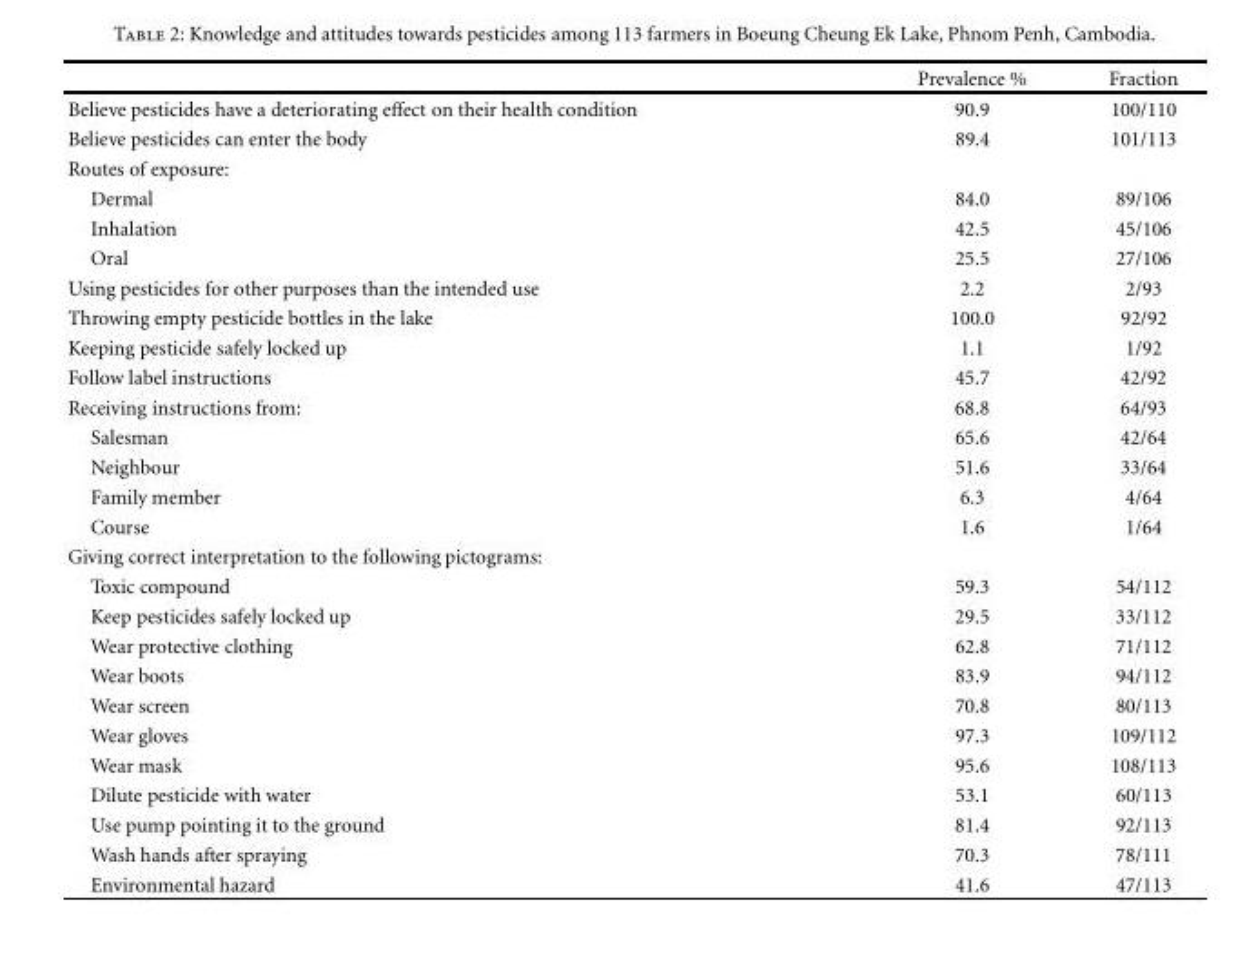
<table><thead><tr><td></td><td>Prevalence %</td><td>Fraction</td></tr></thead><tbody><tr><td>Believe pesticides have a deteriorating effect on their health condition</td><td>90.9</td><td>100/110</td></tr><tr><td>Believe pesticides can enter the body</td><td>89.4</td><td>101/113</td></tr><tr><td colspan="3">Routes of exposure:</td></tr><tr><td>Dermal</td><td>84.0</td><td>89/106</td></tr><tr><td>Inhalation</td><td>42.5</td><td>45/106</td></tr><tr><td>Oral</td><td>25.5</td><td>27/106</td></tr><tr><td>Using pesticides for other purposes than the intended use</td><td>2.2</td><td>2/93</td></tr><tr><td>Throwing empty pesticide bottles in the lake</td><td>100.0</td><td>92/92</td></tr><tr><td>Keeping pesticide safely locked up</td><td>1.1</td><td>1/92</td></tr><tr><td>Follow label instructions</td><td>45.7</td><td>42/92</td></tr><tr><td>Receiving instructions from:</td><td>68.8</td><td>64/93</td></tr><tr><td>Salesman</td><td>65.6</td><td>42/64</td></tr><tr><td>Neighbour</td><td>51.6</td><td>33/64</td></tr><tr><td>Family member</td><td>6.3</td><td>4/64</td></tr><tr><td>Course</td><td>1.6</td><td>1/64</td></tr><tr><td colspan="3">Giving correct interpretation to the following pictograms:</td></tr><tr><td>Toxic compound</td><td>59.3</td><td>54/112</td></tr><tr><td>Keep pesticides safely locked up</td><td>29.5</td><td>33/112</td></tr><tr><td>Wear protective clothing</td><td>62.8</td><td>71/112</td></tr><tr><td>Wear boots</td><td>83.9</td><td>94/112</td></tr><tr><td>Wear screen</td><td>70.8</td><td>80/113</td></tr><tr><td>Wear gloves</td><td>97.3</td><td>109/112</td></tr><tr><td>Wear mask</td><td>95.6</td><td>108/113</td></tr><tr><td>Dilute pesticide with water</td><td>53.1</td><td>60/113</td></tr><tr><td>Use pump pointing it to the ground</td><td>81.4</td><td>92/113</td></tr><tr><td>Wash hands after spraying</td><td>70.3</td><td>78/111</td></tr><tr><td>Environmental hazard</td><td>41.6</td><td>47/113</td></tr></tbody></table>